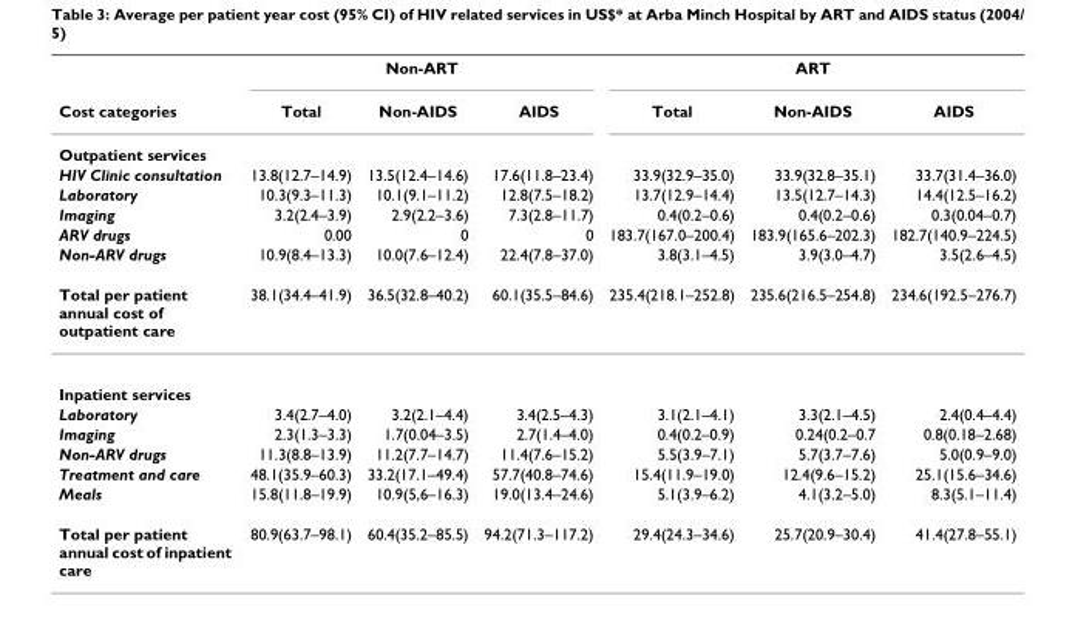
<table><thead><tr><td rowspan="9">Cost categories Outpatient services HIV Clinic consultation Laboratory Imaging ARV drugs Non-ARV drugs Total per patient annual cost of outpatient care</td><td colspan="3">Non-ART</td><td colspan="3">ART</td></tr><tr><td rowspan="8">Total 13.8(12.7–14.9) 10.3(9.3–11.3) 3.2(2.4–3.9) 0.00 10.9(8.4–13.3) 38.1(34.4–41.9)</td><td rowspan="8">Non-AIDS 13.5(12.4–14.6) 10.1(9.1–11.2) 2.9(2.2–3.6) 0 10.0(7.6–12.4) 36.5(32.8–40.2)</td><td rowspan="8">AIDS 17.6(11.8–23.4) 12.8(7.5–18.2) 7.3(2.8–11.7) 0 22.4(7.8–37.0) 60.1(35.5–84.6)</td><td rowspan="8">Total 33.9(32.9–35.0) 13.7(12.9–14.4) 0.4(0.2–0.6) 183.7(167.0–200.4) 3.8(3.1–4.5) 235.4(218.1–252.8)</td><td rowspan="8">Non-AIDS 33.9(32.8–35.1) 13.5(12.7–14.3) 0.4(0.2–0.6) 183.9(165.6–202.3) 3.9(3.0–4.7) 235.6(216.5–254.8)</td><td rowspan="8">AIDS 33.7(31.4–36.0) 14.4(12.5–16.2) 0.3(0.04–0.7) 182.7(140.9–224.5) 3.5(2.6–4.5) 234.6(192.5–276.7)</td></tr><tr></tr><tr></tr><tr></tr><tr></tr><tr></tr><tr></tr><tr></tr></thead><tbody><tr><td colspan="7">Inpatient services</td></tr><tr><td>Laboratory</td><td>3.4(2.7–4.0)</td><td>3.2(2.1–4.4)</td><td>3.4(2.5–4.3)</td><td>3.1(2.1–4.1)</td><td>3.3(2.1–4.5)</td><td>2.4(0.4–4.4)</td></tr><tr><td>Imaging</td><td>2.3(1.3–3.3)</td><td>1.7(0.04–3.5)</td><td>2.7(1.4–4.0)</td><td>0.4(0.2–0.9)</td><td>0.24(0.2–0.7</td><td>0.8(0.18–2.68)</td></tr><tr><td>Non-ARV drugs</td><td>11.3(8.8–13.9)</td><td>11.2(7.7–14.7)</td><td>11.4(7.6–15.2)</td><td>5.5(3.9–7.1)</td><td>5.7(3.7–7.6)</td><td>5.0(0.9–9.0)</td></tr><tr><td>Treatment and care</td><td>48.1(35.9–60.3)</td><td>33.2(17.1–49.4)</td><td>57.7(40.8–74.6)</td><td>15.4(11.9–19.0)</td><td>12.4(9.6–15.2)</td><td>25.1(15.6–34.6)</td></tr><tr><td>Meals</td><td>15.8(11.8–19.9)</td><td>10.9(5,6–16.3)</td><td>19.0(13.4–24.6)</td><td>5.1(3.9–6.2)</td><td>4.1(3.2–5.0)</td><td>8.3(5.1–11.4)</td></tr><tr><td>Total per patient annual cost of inpatient care</td><td>80.9(63.7–98.1)</td><td>60.4(35.2–85.5)</td><td>94.2(71.3–117.2)</td><td>29.4(24.3–34.6)</td><td>25.7(20.9–30.4)</td><td>41.4(27.8–55.1)</td></tr></tbody></table>